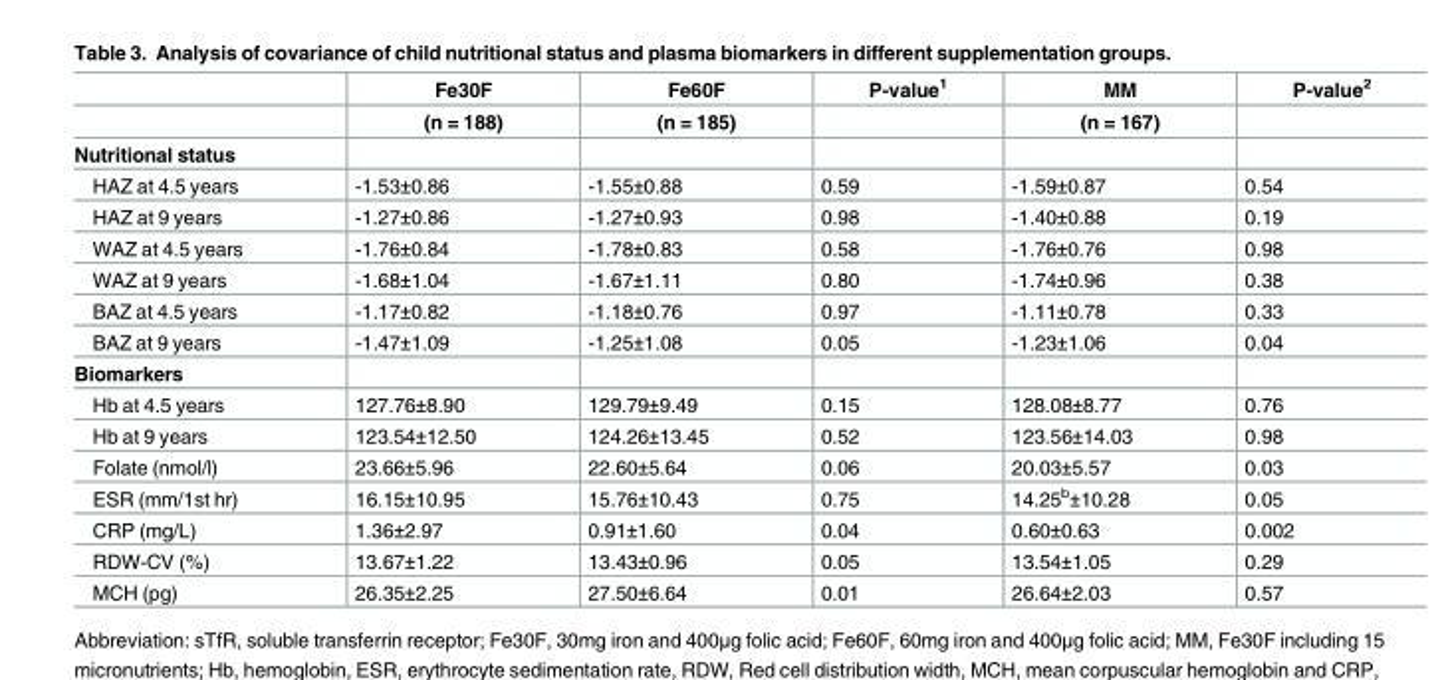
<table><thead><tr><td rowspan="2"></td><td rowspan="2">Fe30F (n = 188)</td><td rowspan="2">Fe60F (n = 185)</td><td rowspan="2">P-value<sup>1</sup></td><td rowspan="2">MM (n = 167)</td><td rowspan="2">P-value<sup>2</sup></td></tr><tr></tr></thead><tbody><tr><td colspan="6">Nutritional status</td></tr><tr><td>HAZ at 4.5 years</td><td>-1.53±0.86</td><td>-1.55±0.88</td><td>0.59</td><td>-1.59±0.87</td><td>0.54</td></tr><tr><td>HAZ at 9 years</td><td>-1.27±0.86</td><td>-1.27±0.93</td><td>0.98</td><td>-1.40±0.88</td><td>0.19</td></tr><tr><td>WAZ at 4.5 years</td><td>-1.76±0.84</td><td>-1.78±0.83</td><td>0.58</td><td>-1.76±0.76</td><td>0.98</td></tr><tr><td>WAZ at 9 years</td><td>-1.68±1.04</td><td>-1.67±1.11</td><td>0.80</td><td>-1.74±0.96</td><td>0.38</td></tr><tr><td>BAZ at 4.5 years</td><td>-1.17±0.82</td><td>-1.18±0.76</td><td>0.97</td><td>-1.11±0.78</td><td>0.33</td></tr><tr><td>BAZ at 9 years</td><td>-1.47±1.09</td><td>-1.25±1.08</td><td>0.05</td><td>-1.23±1.06</td><td>0.04</td></tr><tr><td colspan="6">Biomarkers</td></tr><tr><td>Hb at 4.5 years</td><td>127.76±8.90</td><td>129.79±9.49</td><td>0.15</td><td>128.08±8.77</td><td>0.76</td></tr><tr><td>Hb at 9 years</td><td>123.54±12.50</td><td>124.26±13.45</td><td>0.52</td><td>123.56±14.03</td><td>0.98</td></tr><tr><td>Folate (nmol/l)</td><td>23.66±5.96</td><td>22.60±5.64</td><td>0.06</td><td>20.03±5.57</td><td>0.03</td></tr><tr><td>ESR (mm/1st hr)</td><td>16.15±10.95</td><td>15.76±10.43</td><td>0.75</td><td>14.25<sup>b</sup>±10.28</td><td>0.05</td></tr><tr><td>CRP (mg/L)</td><td>1.36±2.97</td><td>0.91±1.60</td><td>0.04</td><td>0.60±0.63</td><td>0.002</td></tr><tr><td>RDW-CV (%)</td><td>13.67±1.22</td><td>13.43±0.96</td><td>0.05</td><td>13.54±1.05</td><td>0.29</td></tr><tr><td>MCH (pg)</td><td>26.35±2.25</td><td>27.50±6.64</td><td>0.01</td><td>26.64±2.03</td><td>0.57</td></tr></tbody></table>